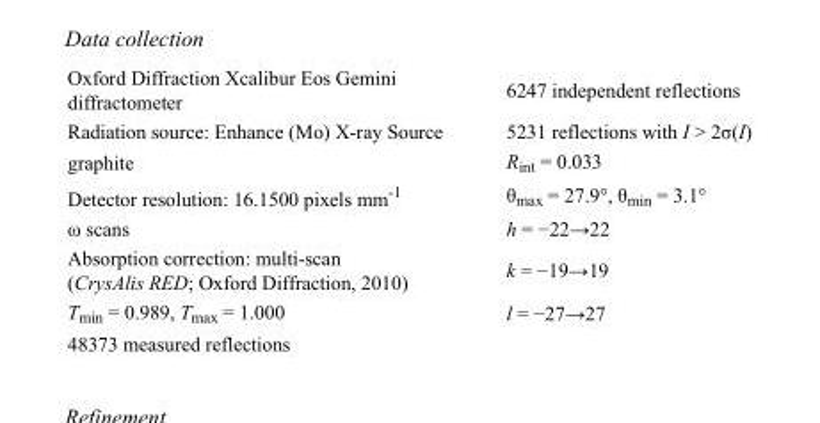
<table><tbody><tr><td>Oxford Diffraction Xcalibur Eos Gemini diffractometer</td><td>6247 independent reflections</td></tr><tr><td>Radiation source: Enhance (Mo) X-ray Source</td><td>5231 reflections with I &gt; 2σ(I)</td></tr><tr><td>graphite</td><td>R<sub>int</sub> = 0.033</td></tr><tr><td>Detector resolution: 16.1500 pixels mm<sup>-1</sup></td><td>θ<sub>max</sub> = 27.9°, θ<sub>min</sub> = 3.1°</td></tr><tr><td>ω scans</td><td>h = −22→22</td></tr><tr><td>Absorption correction: multi-scan (CrysAlis RED; Oxford Diffraction, 2010)</td><td>k = −19→19</td></tr><tr><td>T<sub>min</sub> = 0.989, T<sub>max</sub> = 1.000</td><td>l = −27→27</td></tr><tr><td>48373 measured reflections</td><td></td></tr></tbody></table>